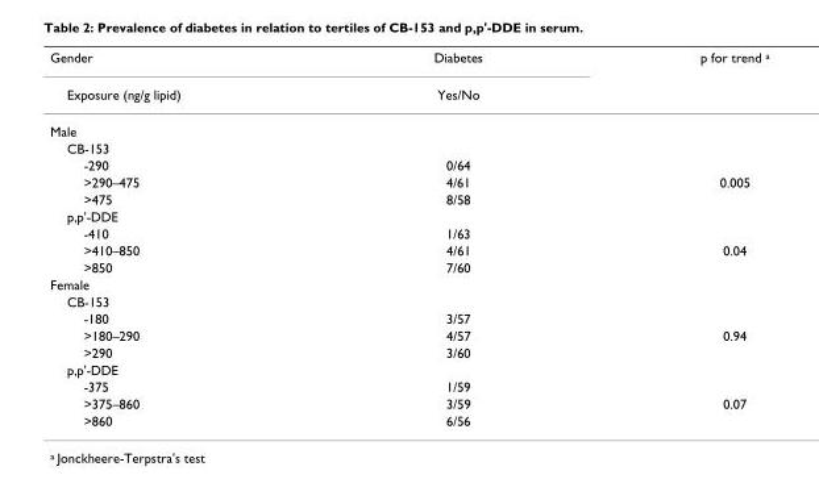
<table><thead><tr><td rowspan="2">Gender Exposure (ng/g lipid)</td><td rowspan="2">Diabetes Yes/No</td><td rowspan="2">p for trend <sup>a</sup></td></tr><tr></tr></thead><tbody><tr><td colspan="3">Male</td></tr><tr><td colspan="3">CB-153</td></tr><tr><td>-290</td><td>0/64</td><td></td></tr><tr><td>&gt;290–475</td><td>4/61</td><td>0.005</td></tr><tr><td>&gt;475</td><td>8/58</td><td></td></tr><tr><td colspan="3">p,p&#x27;-DDE</td></tr><tr><td>-410</td><td>1/63</td><td></td></tr><tr><td>&gt;410–850</td><td>4/61</td><td>0.04</td></tr><tr><td>&gt;850</td><td>7/60</td><td></td></tr><tr><td colspan="3">Female</td></tr><tr><td colspan="3">CB-153</td></tr><tr><td>-180</td><td>3/57</td><td></td></tr><tr><td>&gt;180–290</td><td>4/57</td><td>0.94</td></tr><tr><td>&gt;290</td><td>3/60</td><td></td></tr><tr><td colspan="3">p,p&#x27;-DDE</td></tr><tr><td>-375</td><td>1/59</td><td></td></tr><tr><td>&gt;375–860</td><td>3/59</td><td>0.07</td></tr><tr><td>&gt;860</td><td>6/56</td><td></td></tr></tbody></table>